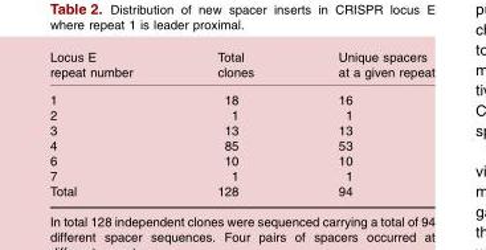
<table><thead><tr><td>Locus E repeat number</td><td>Total clones</td><td>Unique spacers at a given repeat</td></tr></thead><tbody><tr><td>1</td><td>18</td><td>16</td></tr><tr><td>2</td><td>1</td><td>1</td></tr><tr><td>3</td><td>13</td><td>13</td></tr><tr><td>4</td><td>85</td><td>53</td></tr><tr><td>6</td><td>10</td><td>10</td></tr><tr><td>7</td><td>1</td><td>1</td></tr><tr><td>Total</td><td>128</td><td>94</td></tr></tbody></table>